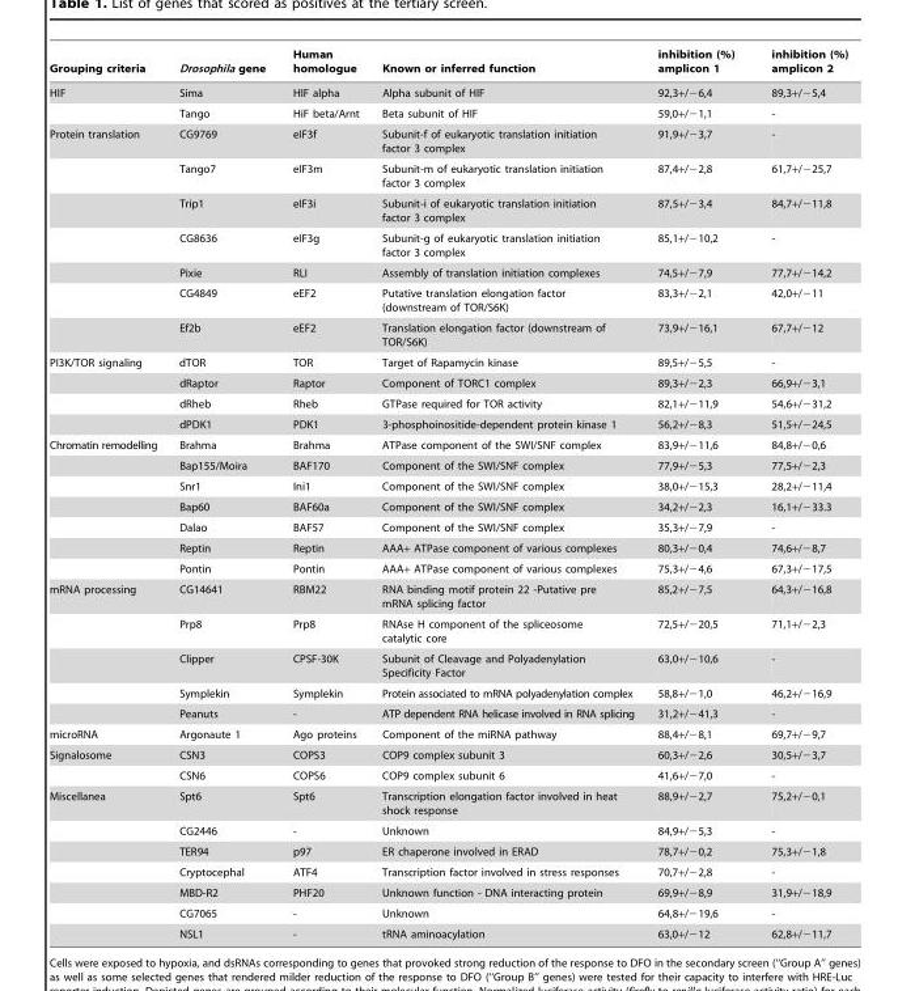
<table><thead><tr><td>Grouping criteria</td><td>Drosophila gene</td><td>Human homologue</td><td>Known or inferred function</td><td>inhibition (%) amplicon 1</td><td>inhibition (%) amplicon 2</td></tr></thead><tbody><tr><td rowspan="2">HIF</td><td>Sima</td><td>HIF alpha</td><td>Alpha subunit of HIF</td><td>92,3+/−6,4</td><td>89,3+/−5,4</td></tr><tr><td>Tango</td><td>HiF beta/Arnt</td><td>Beta subunit of HIF</td><td>59,0+/−1,1</td><td>-</td></tr><tr><td rowspan="7">Protein translation</td><td>CG9769</td><td>eIF3f</td><td>Subunit-f of eukaryotic translation initiation factor 3 complex</td><td>91,9+/−3,7</td><td>-</td></tr><tr><td>Tango7</td><td>eIF3m</td><td>Subunit-m of eukaryotic translation initiation factor 3 complex</td><td>87,4+/−2,8</td><td>61,7+/−25,7</td></tr><tr><td>Trip1</td><td>eIF3i</td><td>Subunit-i of eukaryotic translation initiation factor 3 complex</td><td>87,5+/−3,4</td><td>84,7+/−11,8</td></tr><tr><td>CG8636</td><td>eIF3g</td><td>Subunit-g of eukaryotic translation initiation factor 3 complex</td><td>85,1+/−10,2</td><td>-</td></tr><tr><td>Pixie</td><td>RLI</td><td>Assembly of translation initiation complexes</td><td>74,5+/−7,9</td><td>77,7+/−14,2</td></tr><tr><td>CG4849</td><td>eEF2</td><td>Putative translation elongation factor (downstream of TOR/S6K)</td><td>83,3+/−2,1</td><td>42,0+/−11</td></tr><tr><td>Ef2b</td><td>eEF2</td><td>Translation elongation factor (downstream of TOR/S6K)</td><td>73,9+/−16,1</td><td>67,7+/−12</td></tr><tr><td rowspan="4">PI3K/TOR signaling</td><td>dTOR</td><td>TOR</td><td>Target of Rapamycin kinase</td><td>89,5+/−5,5</td><td>-</td></tr><tr><td>dRaptor</td><td>Raptor</td><td>Component of TORC1 complex</td><td>89,3+/−2,3</td><td>66,9+/−3,1</td></tr><tr><td>dRheb</td><td>Rheb</td><td>GTPase required for TOR activity</td><td>82,1+/−11,9</td><td>54,6+/−31,2</td></tr><tr><td>dPDK1</td><td>PDK1</td><td>3-phosphoinositide-dependent protein kinase 1</td><td>56,2+/−8,3</td><td>51,5+/−24,5</td></tr><tr><td rowspan="7">Chromatin remodelling</td><td>Brahma</td><td>Brahma</td><td>ATPase component of the SWI/SNF complex</td><td>83,9+/−11,6</td><td>84,8+/−0,6</td></tr><tr><td>Bap155/Moira</td><td>BAF170</td><td>Component of the SWI/SNF complex</td><td>77,9+/−5,3</td><td>77,5+/−2,3</td></tr><tr><td>Snr1</td><td>Ini1</td><td>Component of the SWI/SNF complex</td><td>38,0+/−15,3</td><td>28,2+/−11,4</td></tr><tr><td>Bap60</td><td>BAF60a</td><td>Component of the SWI/SNF complex</td><td>34,2+/−2,3</td><td>16,1+/−33.3</td></tr><tr><td>Dalao</td><td>BAF57</td><td>Component of the SWI/SNF complex</td><td>35,3+/−7,9</td><td>-</td></tr><tr><td>Reptin</td><td>Reptin</td><td>AAA+ ATPase component of various complexes</td><td>80,3+/−0,4</td><td>74,6+/−8,7</td></tr><tr><td>Pontin</td><td>Pontin</td><td>AAA+ ATPase component of various complexes</td><td>75,3+/−4,6</td><td>67,3+/−17,5</td></tr><tr><td rowspan="5">mRNA processing</td><td>CG14641</td><td>RBM22</td><td>RNA binding motif protein 22 -Putative pre mRNA splicing factor</td><td>85,2+/−7,5</td><td>64,3+/−16,8</td></tr><tr><td>Prp8</td><td>Prp8</td><td>RNAse H component of the spliceosome catalytic core</td><td>72,5+/−20,5</td><td>71,1+/−2,3</td></tr><tr><td>Clipper</td><td>CPSF-30K</td><td>Subunit of Cleavage and Polyadenylation Specificity Factor</td><td>63,0+/−10,6</td><td>-</td></tr><tr><td>Symplekin</td><td>Symplekin</td><td>Protein associated to mRNA polyadenylation complex</td><td>58,8+/−1,0</td><td>46,2+/−16,9</td></tr><tr><td>Peanuts</td><td>-</td><td>ATP dependent RNA helicase involved in RNA splicing</td><td>31,2+/−41,3</td><td>-</td></tr><tr><td>microRNA</td><td>Argonaute 1</td><td>Ago proteins</td><td>Component of the miRNA pathway</td><td>88,4+/−8,1</td><td>69,7+/−9,7</td></tr><tr><td rowspan="2">Signalosome</td><td>CSN3</td><td>COPS3</td><td>COP9 complex subunit 3</td><td>60,3+/−2,6</td><td>30,5+/−3,7</td></tr><tr><td>CSN6</td><td>COPS6</td><td>COP9 complex subunit 6</td><td>41,6+/−7,0</td><td>-</td></tr><tr><td rowspan="7">Miscellanea</td><td>Spt6</td><td>Spt6</td><td>Transcription elongation factor involved in heat shock response</td><td>88,9+/−2,7</td><td>75,2+/−0,1</td></tr><tr><td>CG2446</td><td>-</td><td>Unknown</td><td>84,9+/−5,3</td><td>-</td></tr><tr><td>TER94</td><td>p97</td><td>ER chaperone involved in ERAD</td><td>78,7+/−0,2</td><td>75,3+/−1,8</td></tr><tr><td>Cryptocephal</td><td>ATF4</td><td>Transcription factor involved in stress responses</td><td>70,7+/−2,8</td><td>-</td></tr><tr><td>MBD-R2</td><td>PHF20</td><td>Unknown function - DNA interacting protein</td><td>69,9+/−8,9</td><td>31,9+/−18,9</td></tr><tr><td>CG7065</td><td>-</td><td>Unknown</td><td>64,8+/−19,6</td><td>-</td></tr><tr><td>NSL1</td><td>-</td><td>tRNA aminoacylation</td><td>63,0+/−12</td><td>62,8+/−11,7</td></tr></tbody></table>